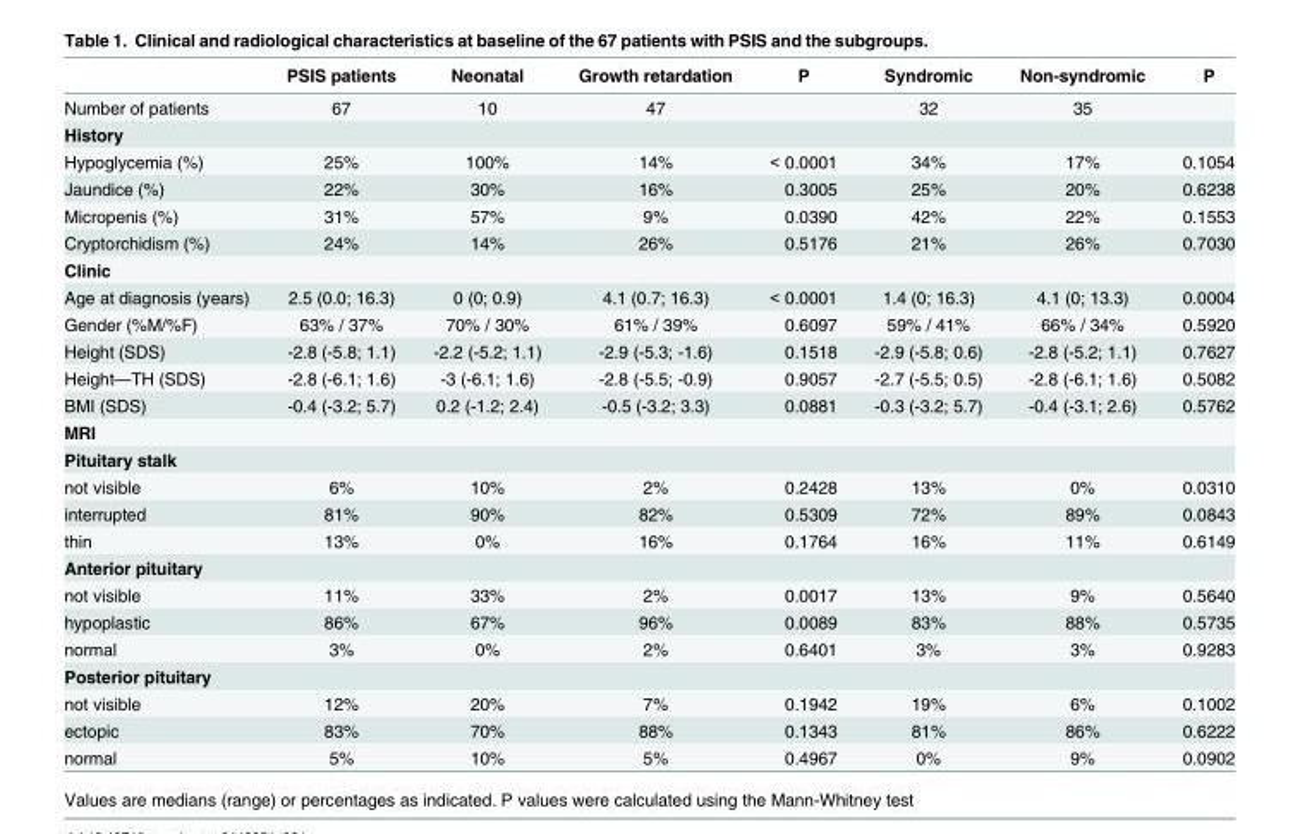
<table><thead><tr><td></td><td>PSIS patients</td><td>Neonatal</td><td>Growth retardation</td><td>P</td><td>Syndromic</td><td>Non-syndromic</td><td>P</td></tr></thead><tbody><tr><td>Number of patients</td><td>67</td><td>10</td><td>47</td><td></td><td>32</td><td>35</td><td></td></tr><tr><td colspan="8">History</td></tr><tr><td>Hypoglycemia (%)</td><td>25%</td><td>100%</td><td>14%</td><td>&lt; 0.0001</td><td>34%</td><td>17%</td><td>0.1054</td></tr><tr><td>Jaundice (%)</td><td>22%</td><td>30%</td><td>16%</td><td>0.3005</td><td>25%</td><td>20%</td><td>0.6238</td></tr><tr><td>Micropenis (%)</td><td>31%</td><td>57%</td><td>9%</td><td>0.0390</td><td>42%</td><td>22%</td><td>0.1553</td></tr><tr><td>Cryptorchidism (%)</td><td>24%</td><td>14%</td><td>26%</td><td>0.5176</td><td>21%</td><td>26%</td><td>0.7030</td></tr><tr><td colspan="8">Clinic</td></tr><tr><td>Age at diagnosis (years)</td><td>2.5 (0.0; 16.3)</td><td>0 (0; 0.9)</td><td>4.1 (0.7; 16.3)</td><td>&lt; 0.0001</td><td>1.4 (0; 16.3)</td><td>4.1 (0; 13.3)</td><td>0.0004</td></tr><tr><td>Gender (%M/%F)</td><td>63% / 37%</td><td>70% / 30%</td><td>61% / 39%</td><td>0.6097</td><td>59% / 41%</td><td>66% / 34%</td><td>0.5920</td></tr><tr><td>Height (SDS)</td><td>-2.8 (-5.8; 1.1)</td><td>-2.2 (-5.2; 1.1)</td><td>-2.9 (-5.3; -1.6)</td><td>0.1518</td><td>-2.9 (-5.8; 0.6)</td><td>-2.8 (-5.2; 1.1)</td><td>0.7627</td></tr><tr><td>Height—TH (SDS)</td><td>-2.8 (-6.1; 1.6)</td><td>-3 (-6.1; 1.6)</td><td>-2.8 (-5.5; -0.9)</td><td>0.9057</td><td>-2.7 (-5.5; 0.5)</td><td>-2.8 (-6.1; 1.6)</td><td>0.5082</td></tr><tr><td>BMI (SDS)</td><td>-0.4 (-3.2; 5.7)</td><td>0.2 (-1.2; 2.4)</td><td>-0.5 (-3.2; 3.3)</td><td>0.0881</td><td>-0.3 (-3.2; 5.7)</td><td>-0.4 (-3.1; 2.6)</td><td>0.5762</td></tr><tr><td colspan="8">MRI</td></tr><tr><td colspan="8">Pituitary stalk</td></tr><tr><td>not visible</td><td>6%</td><td>10%</td><td>2%</td><td>0.2428</td><td>13%</td><td>0%</td><td>0.0310</td></tr><tr><td>interrupted</td><td>81%</td><td>90%</td><td>82%</td><td>0.5309</td><td>72%</td><td>89%</td><td>0.0843</td></tr><tr><td>thin</td><td>13%</td><td>0%</td><td>16%</td><td>0.1764</td><td>16%</td><td>11%</td><td>0.6149</td></tr><tr><td colspan="8">Anterior pituitary</td></tr><tr><td>not visible</td><td>11%</td><td>33%</td><td>2%</td><td>0.0017</td><td>13%</td><td>9%</td><td>0.5640</td></tr><tr><td>hypoplastic</td><td>86%</td><td>67%</td><td>96%</td><td>0.0089</td><td>83%</td><td>88%</td><td>0.5735</td></tr><tr><td>normal</td><td>3%</td><td>0%</td><td>2%</td><td>0.6401</td><td>3%</td><td>3%</td><td>0.9283</td></tr><tr><td colspan="8">Posterior pituitary</td></tr><tr><td>not visible</td><td>12%</td><td>20%</td><td>7%</td><td>0.1942</td><td>19%</td><td>6%</td><td>0.1002</td></tr><tr><td>ectopic</td><td>83%</td><td>70%</td><td>88%</td><td>0.1343</td><td>81%</td><td>86%</td><td>0.6222</td></tr><tr><td>normal</td><td>5%</td><td>10%</td><td>5%</td><td>0.4967</td><td>0%</td><td>9%</td><td>0.0902</td></tr></tbody></table>